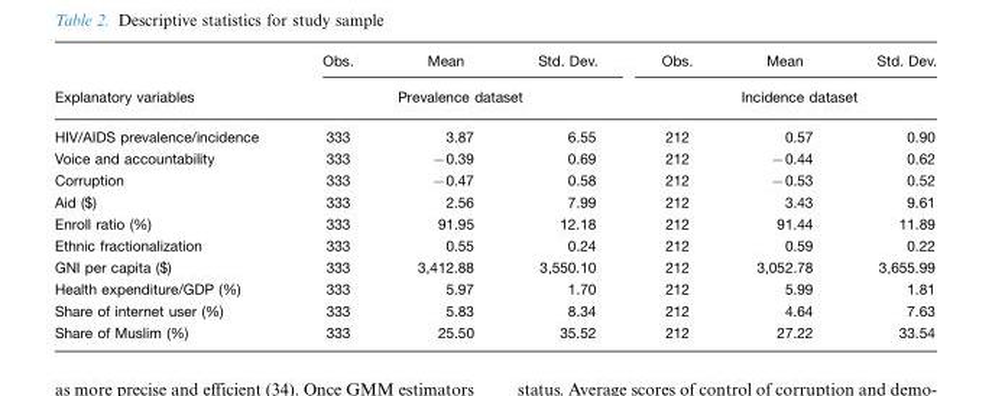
<table><thead><tr><td rowspan="2">Explanatory variables</td><td>Obs.</td><td>Mean</td><td>Std. Dev.</td><td>Obs.</td><td>Mean</td><td>Std. Dev.</td></tr><tr><td colspan="3">Prevalence dataset</td><td colspan="3">Incidence dataset</td></tr></thead><tbody><tr><td>HIV/AIDS prevalence/incidence</td><td>333</td><td>3.87</td><td>6.55</td><td>212</td><td>0.57</td><td>0.90</td></tr><tr><td>Voice and accountability</td><td>333</td><td>−0.39</td><td>0.69</td><td>212</td><td>−0.44</td><td>0.62</td></tr><tr><td>Corruption</td><td>333</td><td>−0.47</td><td>0.58</td><td>212</td><td>−0.53</td><td>0.52</td></tr><tr><td>Aid ($)</td><td>333</td><td>2.56</td><td>7.99</td><td>212</td><td>3.43</td><td>9.61</td></tr><tr><td>Enroll ratio (%)</td><td>333</td><td>91.95</td><td>12.18</td><td>212</td><td>91.44</td><td>11.89</td></tr><tr><td>Ethnic fractionalization</td><td>333</td><td>0.55</td><td>0.24</td><td>212</td><td>0.59</td><td>0.22</td></tr><tr><td>GNI per capita ($)</td><td>333</td><td>3,412.88</td><td>3,550.10</td><td>212</td><td>3,052.78</td><td>3,655.99</td></tr><tr><td>Health expenditure/GDP (%)</td><td>333</td><td>5.97</td><td>1.70</td><td>212</td><td>5.99</td><td>1.81</td></tr><tr><td>Share of internet user (%)</td><td>333</td><td>5.83</td><td>8.34</td><td>212</td><td>4.64</td><td>7.63</td></tr><tr><td>Share of Muslim (%)</td><td>333</td><td>25.50</td><td>35.52</td><td>212</td><td>27.22</td><td>33.54</td></tr></tbody></table>